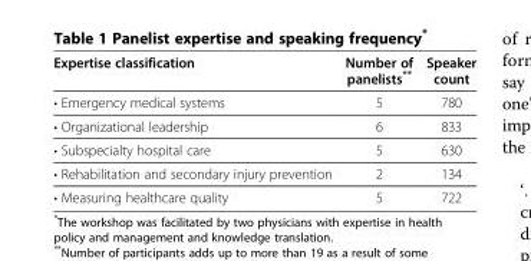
<table><thead><tr><td>Expertise classification</td><td>Number of panelists**</td><td>Speaker count</td></tr></thead><tbody><tr><td>• Emergency medical systems</td><td>5</td><td>780</td></tr><tr><td>• Organizational leadership</td><td>6</td><td>833</td></tr><tr><td>• Subspecialty hospital care</td><td>5</td><td>630</td></tr><tr><td>• Rehabilitation and secondary injury prevention</td><td>2</td><td>134</td></tr><tr><td>• Measuring healthcare quality</td><td>5</td><td>722</td></tr></tbody></table>